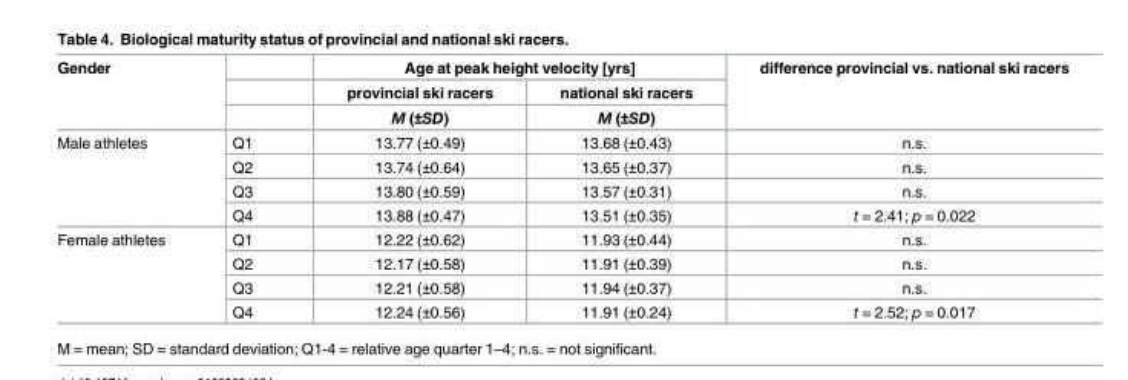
<table><thead><tr><td rowspan="3">Gender</td><td rowspan="3"></td><td colspan="2">Age at peak height velocity [yrs]</td><td rowspan="3">difference provincial vs. national ski racers</td></tr><tr><td rowspan="2">provincial ski racers M (±SD)</td><td rowspan="2">national ski racers M (±SD)</td></tr><tr></tr></thead><tbody><tr><td rowspan="4">Male athletes</td><td>Q1</td><td>13.77 (±0.49)</td><td>13.68 (±0.43)</td><td>n.s.</td></tr><tr><td>Q2</td><td>13.74 (±0.64)</td><td>13.65 (±0.37)</td><td>n.s.</td></tr><tr><td>Q3</td><td>13.80 (±0.59)</td><td>13.57 (±0.31)</td><td>n.s.</td></tr><tr><td>Q4</td><td>13.88 (±0.47)</td><td>13.51 (±0.35)</td><td>t = 2.41; p = 0.022</td></tr><tr><td rowspan="4">Female athletes</td><td>Q1</td><td>12.22 (±0.62)</td><td>11.93 (±0.44)</td><td>n.s.</td></tr><tr><td>Q2</td><td>12.17 (±0.58)</td><td>11.91 (±0.39)</td><td>n.s.</td></tr><tr><td>Q3</td><td>12.21 (±0.58)</td><td>11.94 (±0.37)</td><td>n.s.</td></tr><tr><td>Q4</td><td>12.24 (±0.56)</td><td>11.91 (±0.24)</td><td>t = 2.52; p = 0.017</td></tr></tbody></table>